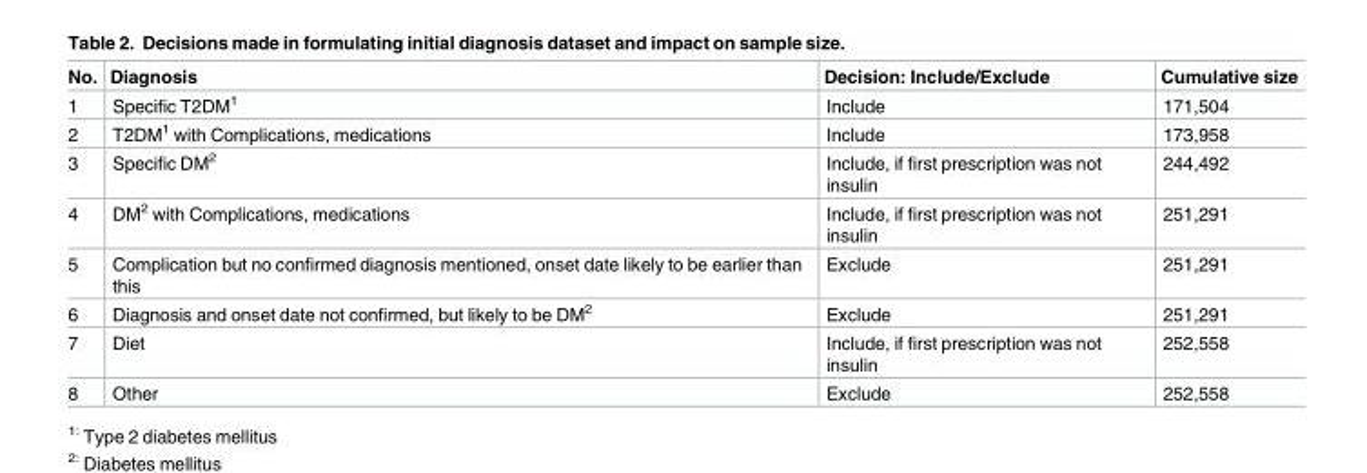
<table><thead><tr><td>No.</td><td>Diagnosis</td><td>Decision: Include/Exclude</td><td>Cumulative size</td></tr></thead><tbody><tr><td>1</td><td>Specific T2DM<sup>1</sup></td><td>Include</td><td>171,504</td></tr><tr><td>2</td><td>T2DM<sup>1</sup> with Complications, medications</td><td>Include</td><td>173,958</td></tr><tr><td>3</td><td>Specific DM<sup>2</sup></td><td>Include, if first prescription was not insulin</td><td>244,492</td></tr><tr><td>4</td><td>DM<sup>2</sup> with Complications, medications</td><td>Include, if first prescription was not insulin</td><td>251,291</td></tr><tr><td>5</td><td>Complication but no confirmed diagnosis mentioned, onset date likely to be earlier than this</td><td>Exclude</td><td>251,291</td></tr><tr><td>6</td><td>Diagnosis and onset date not confirmed, but likely to be DM<sup>2</sup></td><td>Exclude</td><td>251,291</td></tr><tr><td>7</td><td>Diet</td><td>Include, if first prescription was not insulin</td><td>252,558</td></tr><tr><td>8</td><td>Other</td><td>Exclude</td><td>252,558</td></tr></tbody></table>